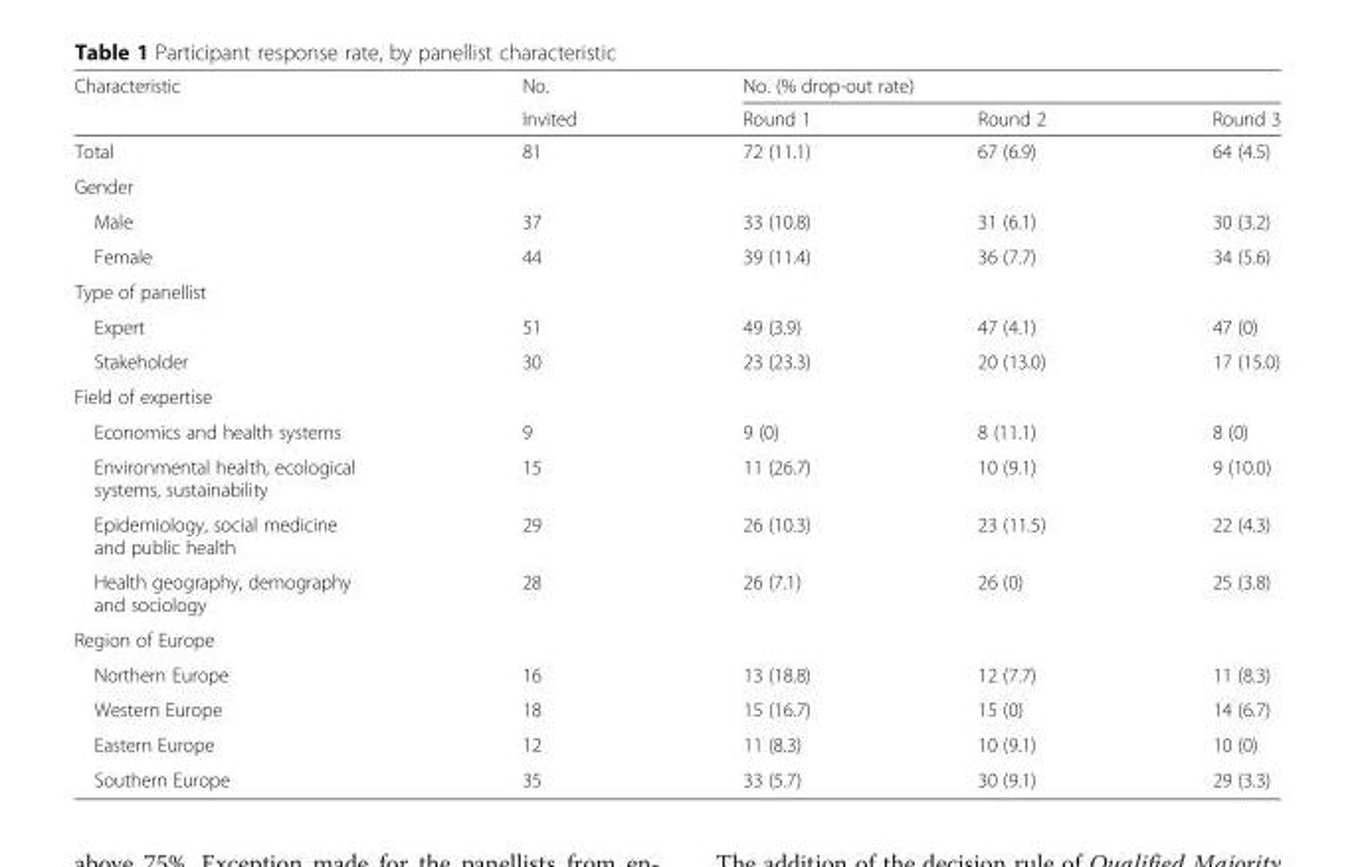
<table><thead><tr><td rowspan="2">Characteristic</td><td rowspan="2">No. Invited</td><td colspan="3">No. (% drop-out rate)</td></tr><tr><td>Round 1</td><td>Round 2</td><td>Round 3</td></tr></thead><tbody><tr><td>Total</td><td>81</td><td>72 (11.1)</td><td>67 (6.9)</td><td>64 (4.5)</td></tr><tr><td colspan="5">Gender</td></tr><tr><td>Male</td><td>37</td><td>33 (10.8)</td><td>31 (6.1)</td><td>30 (3.2)</td></tr><tr><td>Female</td><td>44</td><td>39 (11.4)</td><td>36 (7.7)</td><td>34 (5.6)</td></tr><tr><td colspan="5">Type of panellist</td></tr><tr><td>Expert</td><td>51</td><td>49 (3.9)</td><td>47 (4.1)</td><td>47 (0)</td></tr><tr><td>Stakeholder</td><td>30</td><td>23 (23.3)</td><td>20 (13.0)</td><td>17 (15.0)</td></tr><tr><td colspan="5">Field of expertise</td></tr><tr><td>Economics and health systems</td><td>9</td><td>9 (0)</td><td>8 (11.1)</td><td>8 (0)</td></tr><tr><td>Environmental health, ecological systems, sustainability</td><td>15</td><td>11 (26.7)</td><td>10 (9.1)</td><td>9 (10.0)</td></tr><tr><td>Epidemiology, social medicine and public health</td><td>29</td><td>26 (10.3)</td><td>23 (11.5)</td><td>22 (4.3)</td></tr><tr><td>Health geography, demography and sociology</td><td>28</td><td>26 (7.1)</td><td>26 (0)</td><td>25 (3.8)</td></tr><tr><td colspan="5">Region of Europe</td></tr><tr><td>Northern Europe</td><td>16</td><td>13 (18.8)</td><td>12 (7.7)</td><td>11 (8.3)</td></tr><tr><td>Western Europe</td><td>18</td><td>15 (16.7)</td><td>15 (0)</td><td>14 (6.7)</td></tr><tr><td>Eastern Europe</td><td>12</td><td>11 (8.3)</td><td>10 (9.1)</td><td>10 (0)</td></tr><tr><td>Southern Europe</td><td>35</td><td>33 (5.7)</td><td>30 (9.1)</td><td>29 (3.3)</td></tr></tbody></table>